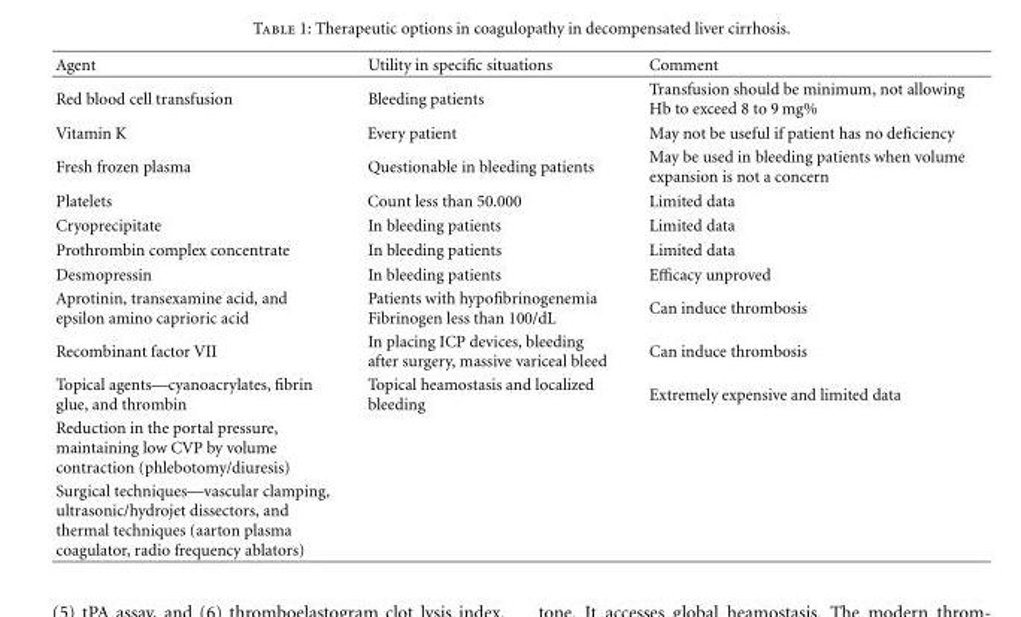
<table><thead><tr><td>Agent</td><td>Utility in specific situations</td><td>Comment</td></tr></thead><tbody><tr><td>Red blood cell transfusion</td><td>Bleeding patients</td><td>Transfusion should be minimum, not allowing Hb to exceed 8 to 9 mg%</td></tr><tr><td>Vitamin K</td><td>Every patient</td><td>May not be useful if patient has no deficiency</td></tr><tr><td>Fresh frozen plasma</td><td>Questionable in bleeding patients</td><td>May be used in bleeding patients when volume expansion is not a concern</td></tr><tr><td>Platelets</td><td>Count less than 50.000</td><td>Limited data</td></tr><tr><td>Cryoprecipitate</td><td>In bleeding patients</td><td>Limited data</td></tr><tr><td>Prothrombin complex concentrate</td><td>In bleeding patients</td><td>Limited data</td></tr><tr><td>Desmopressin</td><td>In bleeding patients</td><td>Efficacy unproved</td></tr><tr><td>Aprotinin, transexamine acid, and epsilon amino caprioric acid</td><td>Patients with hypofibrinogenemia Fibrinogen less than 100/dL</td><td>Can induce thrombosis</td></tr><tr><td>Recombinant factor VII</td><td>In placing ICP devices, bleeding after surgery, massive variceal bleed</td><td>Can induce thrombosis</td></tr><tr><td>Topical agents—cyanoacrylates, fibrin glue, and thrombin</td><td>Topical heamostasis and localized bleeding</td><td>Extremely expensive and limited data</td></tr><tr><td colspan="3">Reduction in the portal pressure, maintaining low CVP by volume contraction (phlebotomy/diuresis)</td></tr><tr><td>Surgical techniques—vascular clamping, ultrasonic/hydrojet dissectors, and thermal techniques (aarton plasma coagulator, radio frequency ablators)</td><td></td><td></td></tr></tbody></table>